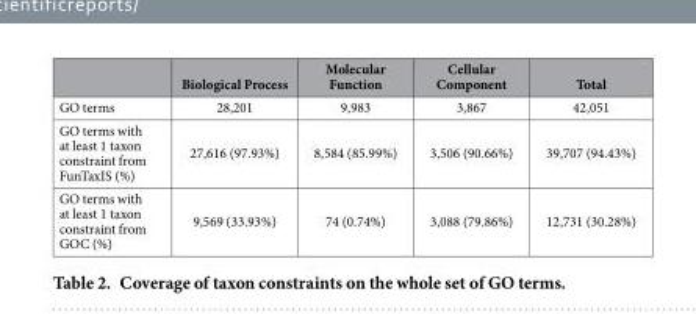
<table><thead><tr><td></td><td>Biological Process</td><td>Molecular Function</td><td>Cellular Component</td><td>Total</td></tr></thead><tbody><tr><td>GO terms</td><td>28,201</td><td>9,983</td><td>3,867</td><td>42,051</td></tr><tr><td>GO terms with at least 1 taxon constraint from FunTaxIS (%)</td><td>27,616 (97.93%)</td><td>8,584 (85.99%)</td><td>3,506 (90.66%)</td><td>39,707 (94.43%)</td></tr><tr><td>GO terms with at least 1 taxon constraint from GOC (%)</td><td>9,569 (33.93%)</td><td>74 (0.74%)</td><td>3,088 (79.86%)</td><td>12,731 (30.28%)</td></tr></tbody></table>